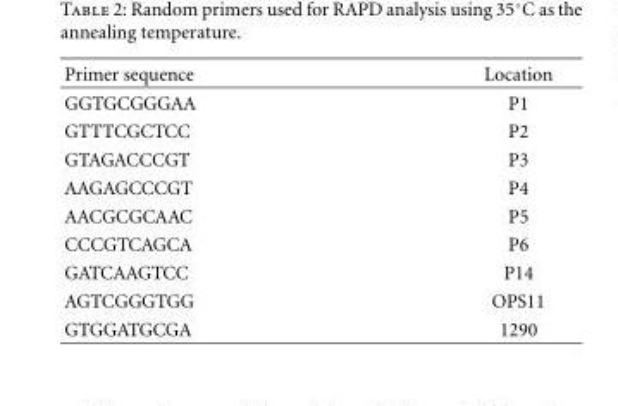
<table><thead><tr><td>Primer sequence</td><td>Location</td></tr></thead><tbody><tr><td>GGTGCGGGAA</td><td>P1</td></tr><tr><td>GTTTCGCTCC</td><td>P2</td></tr><tr><td>GTAGACCCGT</td><td>P3</td></tr><tr><td>AAGAGCCCGT</td><td>P4</td></tr><tr><td>AACGCGCAAC</td><td>P5</td></tr><tr><td>CCCGTCAGCA</td><td>P6</td></tr><tr><td>GATCAAGTCC</td><td>P14</td></tr><tr><td>AGTCGGGTGG</td><td>OPS11</td></tr><tr><td>GTGGATGCGA</td><td>1290</td></tr></tbody></table>